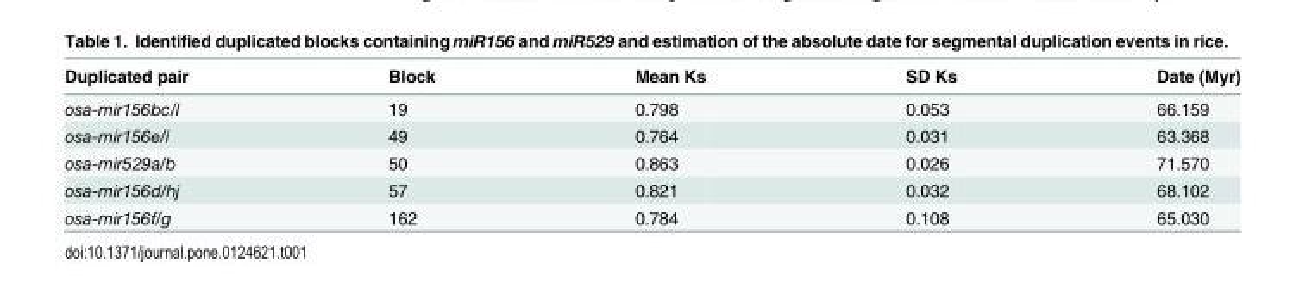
<table><thead><tr><td>Duplicated pair</td><td>Block</td><td>Mean Ks</td><td>SD Ks</td><td>Date (Myr)</td></tr></thead><tbody><tr><td>osa-mir156bc/l</td><td>19</td><td>0.798</td><td>0.053</td><td>66.159</td></tr><tr><td>osa-mir156e/i</td><td>49</td><td>0.764</td><td>0.031</td><td>63.368</td></tr><tr><td>osa-mir529a/b</td><td>50</td><td>0.863</td><td>0.026</td><td>71.570</td></tr><tr><td>osa-mir156d/hj</td><td>57</td><td>0.821</td><td>0.032</td><td>68.102</td></tr><tr><td>osa-mir156f/g</td><td>162</td><td>0.784</td><td>0.108</td><td>65.030</td></tr></tbody></table>